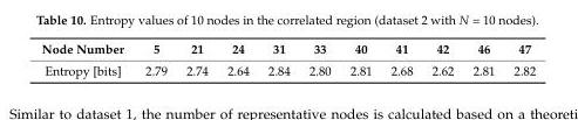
<table><thead><tr><td>Node Number</td><td>5</td><td>21</td><td>24</td><td>31</td><td>33</td><td>40</td><td>41</td><td>42</td><td>46</td><td>47</td></tr></thead><tbody><tr><td>Entropy [bits]</td><td>2.79</td><td>2.74</td><td>2.64</td><td>2.84</td><td>2.80</td><td>2.81</td><td>2.68</td><td>2.62</td><td>2.81</td><td>2.82</td></tr></tbody></table>